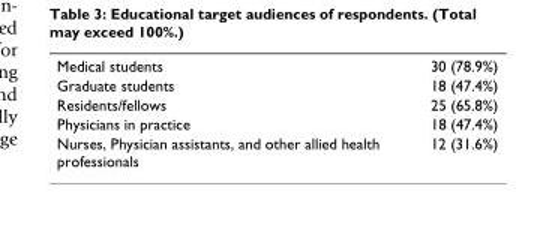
<table><tbody><tr><td>Medical students</td><td>30 (78.9%)</td></tr><tr><td>Graduate students</td><td>18 (47.4%)</td></tr><tr><td>Residents/fellows</td><td>25 (65.8%)</td></tr><tr><td>Physicians in practice</td><td>18 (47.4%)</td></tr><tr><td>Nurses, Physician assistants, and other allied health professionals</td><td>12 (31.6%)</td></tr></tbody></table>